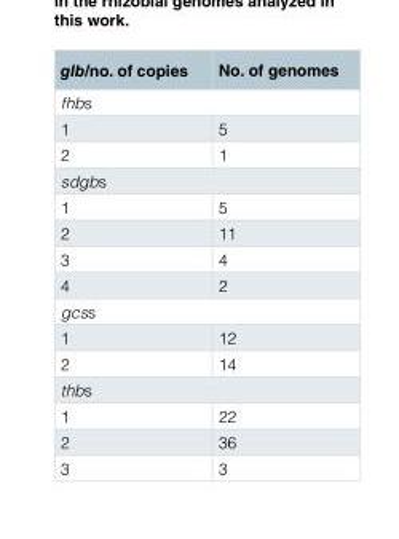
<table><thead><tr><td>glb/no. of copies</td><td>No. of genomes</td></tr></thead><tbody><tr><td colspan="2">fhbs</td></tr><tr><td>1</td><td>5</td></tr><tr><td>2</td><td>1</td></tr><tr><td colspan="2">sdgbs</td></tr><tr><td>1</td><td>5</td></tr><tr><td>2</td><td>11</td></tr><tr><td>3</td><td>4</td></tr><tr><td>4</td><td>2</td></tr><tr><td colspan="2">gcss</td></tr><tr><td>1</td><td>12</td></tr><tr><td>2</td><td>14</td></tr><tr><td colspan="2">thbs</td></tr><tr><td>1</td><td>22</td></tr><tr><td>2</td><td>36</td></tr><tr><td>3</td><td>3</td></tr></tbody></table>